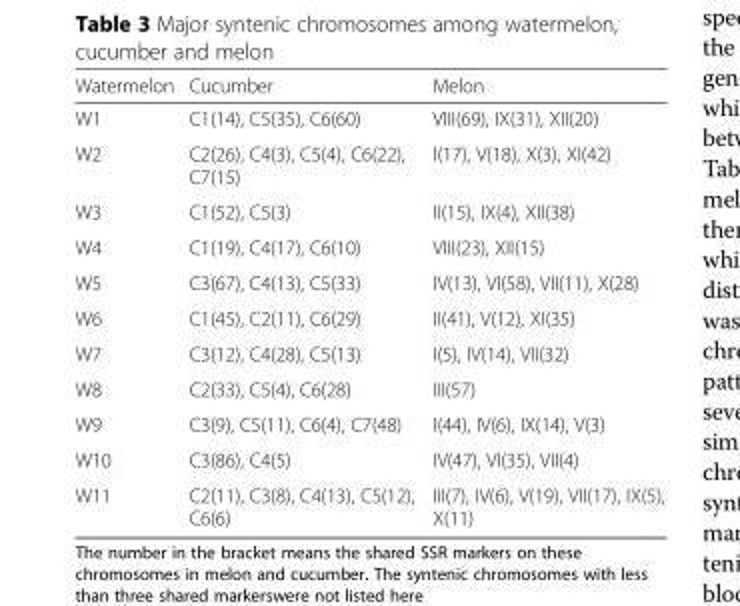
<table><thead><tr><td>Watermelon</td><td>Cucumber</td><td>Melon</td></tr></thead><tbody><tr><td>W1</td><td>C1(14), C5(35), C6(60)</td><td>VIII(69), IX(31), XII(20)</td></tr><tr><td>W2</td><td>C2(26), C4(3), C5(4), C6(22), C7(15)</td><td>I(17), V(18), X(3), XI(42)</td></tr><tr><td>W3</td><td>C1(52), C5(3)</td><td>II(15), IX(4), XII(38)</td></tr><tr><td>W4</td><td>C1(19), C4(17), C6(10)</td><td>VIII(23), XII(15)</td></tr><tr><td>W5</td><td>C3(67), C4(13), C5(33)</td><td>IV(13), VI(58), VII(11), X(28)</td></tr><tr><td>W6</td><td>C1(45), C2(11), C6(29)</td><td>II(41), V(12), XI(35)</td></tr><tr><td>W7</td><td>C3(12), C4(28), C5(13)</td><td>I(5), IV(14), VII(32)</td></tr><tr><td>W8</td><td>C2(33), C5(4), C6(28)</td><td>III(57)</td></tr><tr><td>W9</td><td>C3(9), C5(11), C6(4), C7(48)</td><td>I(44), IV(6), IX(14), V(3)</td></tr><tr><td>W10</td><td>C3(86), C4(5)</td><td>IV(47), VI(35), VII(4)</td></tr><tr><td>W11</td><td>C2(11), C3(8), C4(13), C5(12), C6(6)</td><td>III(7), IV(6), V(19), VII(17), IX(5), X(11)</td></tr></tbody></table>